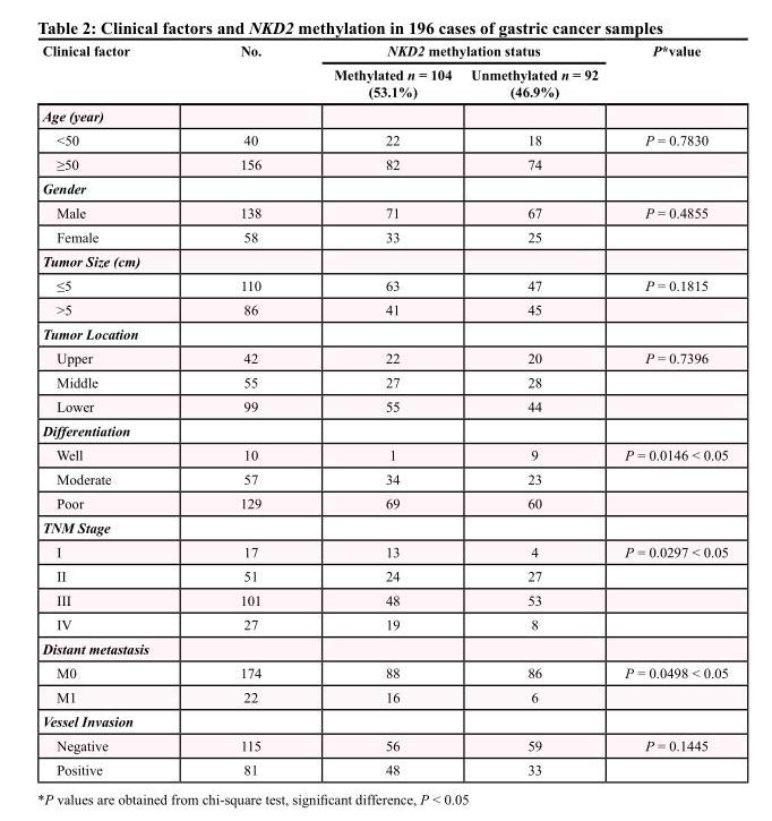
<table><thead><tr><td rowspan="2">Clinical factor</td><td rowspan="2">No.</td><td colspan="2">NKD2 methylation status</td><td rowspan="2">P*value</td></tr><tr><td>Methylated n = 104 (53.1%)</td><td>Unmethylated n = 92 (46.9%)</td></tr></thead><tbody><tr><td colspan="5">Age (year)</td></tr><tr><td>&lt;50</td><td>40</td><td>22</td><td>18</td><td>P = 0.7830</td></tr><tr><td>≥50</td><td>156</td><td>82</td><td>74</td><td></td></tr><tr><td colspan="5">Gender</td></tr><tr><td>Male</td><td>138</td><td>71</td><td>67</td><td>P = 0.4855</td></tr><tr><td>Female</td><td>58</td><td>33</td><td>25</td><td></td></tr><tr><td colspan="5">Tumor Size (cm)</td></tr><tr><td>≤5</td><td>110</td><td>63</td><td>47</td><td>P = 0.1815</td></tr><tr><td>&gt;5</td><td>86</td><td>41</td><td>45</td><td></td></tr><tr><td colspan="5">Tumor Location</td></tr><tr><td>Upper</td><td>42</td><td>22</td><td>20</td><td>P = 0.7396</td></tr><tr><td>Middle</td><td>55</td><td>27</td><td>28</td><td></td></tr><tr><td>Lower</td><td>99</td><td>55</td><td>44</td><td></td></tr><tr><td colspan="5">Differentiation</td></tr><tr><td>Well</td><td>10</td><td>1</td><td>9</td><td>P = 0.0146 &lt; 0.05</td></tr><tr><td>Moderate</td><td>57</td><td>34</td><td>23</td><td></td></tr><tr><td>Poor</td><td>129</td><td>69</td><td>60</td><td></td></tr><tr><td colspan="5">TNM Stage</td></tr><tr><td>I</td><td>17</td><td>13</td><td>4</td><td>P = 0.0297 &lt; 0.05</td></tr><tr><td>II</td><td>51</td><td>24</td><td>27</td><td></td></tr><tr><td>III</td><td>101</td><td>48</td><td>53</td><td></td></tr><tr><td>IV</td><td>27</td><td>19</td><td>8</td><td></td></tr><tr><td colspan="5">Distant metastasis</td></tr><tr><td>M0</td><td>174</td><td>88</td><td>86</td><td>P = 0.0498 &lt; 0.05</td></tr><tr><td>M1</td><td>22</td><td>16</td><td>6</td><td></td></tr><tr><td colspan="5">Vessel Invasion</td></tr><tr><td>Negative</td><td>115</td><td>56</td><td>59</td><td>P = 0.1445</td></tr><tr><td>Positive</td><td>81</td><td>48</td><td>33</td><td></td></tr></tbody></table>